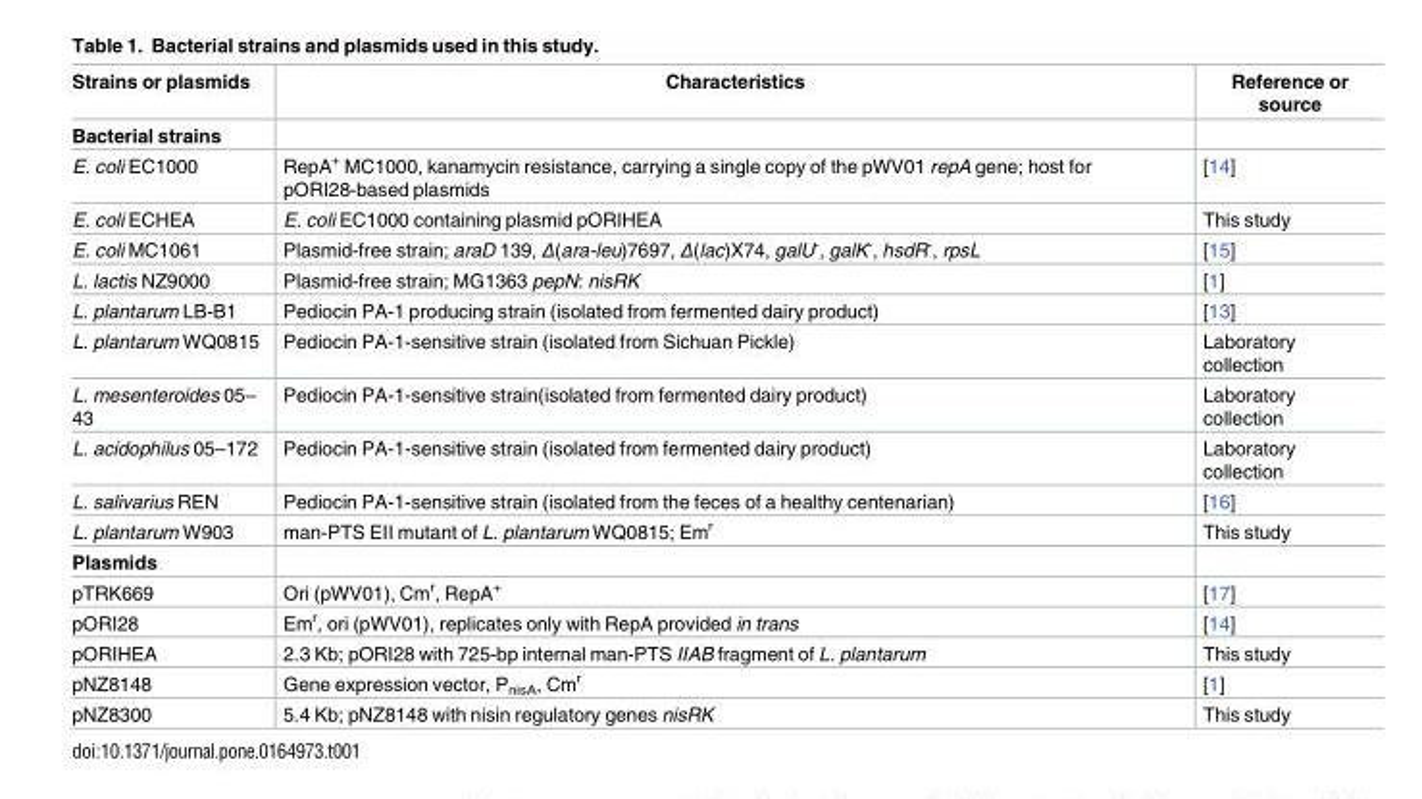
<table><thead><tr><td>Strains or plasmids</td><td>Characteristics</td><td>Reference or source</td></tr></thead><tbody><tr><td colspan="3">Bacterial strains</td></tr><tr><td>E. coli EC1000</td><td>RepA<sup>+</sup> MC1000, kanamycin resistance, carrying a single copy of the pWV01 repA gene; host for pORI28-based plasmids</td><td>[14]</td></tr><tr><td>E. coli ECHEA</td><td>E. coli EC1000 containing plasmid pORIHEA</td><td>This study</td></tr><tr><td>E. coli MC1061</td><td>Plasmid-free strain; araD 139, Δ(ara-leu)7697, Δ(lac)X74, galU<sup>-</sup>, galK<sup>-</sup>, hsdR<sup>-</sup>, rpsL</td><td>[15]</td></tr><tr><td>L. lactis NZ9000</td><td>Plasmid-free strain; MG1363 pepN: nisRK</td><td>[1]</td></tr><tr><td>L. plantarum LB-B1</td><td>Pediocin PA-1 producing strain (isolated from fermented dairy product)</td><td>[13]</td></tr><tr><td>L. plantarum WQ0815</td><td>Pediocin PA-1-sensitive strain (isolated from Sichuan Pickle)</td><td>Laboratory collection</td></tr><tr><td>L. mesenteroides 05– 43</td><td>Pediocin PA-1-sensitive strain(isolated from fermented dairy product)</td><td>Laboratory collection</td></tr><tr><td>L. acidophilus 05–172</td><td>Pediocin PA-1-sensitive strain (isolated from fermented dairy product)</td><td>Laboratory collection</td></tr><tr><td>L. salivarius REN</td><td>Pediocin PA-1-sensitive strain (isolated from the feces of a healthy centenarian)</td><td>[16]</td></tr><tr><td>L. plantarum W903</td><td>man-PTS EII mutant of L. plantarum WQ0815; Em<sup>r</sup></td><td>This study</td></tr><tr><td colspan="3">Plasmids</td></tr><tr><td>pTRK669</td><td>Ori (pWV01), Cm<sup>r</sup>, RepA<sup>+</sup></td><td>[17]</td></tr><tr><td>pORI28</td><td>Em<sup>r</sup>, ori (pWV01), replicates only with RepA provided in trans</td><td>[14]</td></tr><tr><td>pORIHEA</td><td>2.3 Kb; pORI28 with 725-bp internal man-PTS IIAB fragment of L. plantarum</td><td>This study</td></tr><tr><td>pNZ8148</td><td>Gene expression vector, P<sub>nisA</sub>, Cm<sup>r</sup></td><td>[1]</td></tr><tr><td>pNZ8300</td><td>5.4 Kb; pNZ8148 with nisin regulatory genes nisRK</td><td>This study</td></tr></tbody></table>